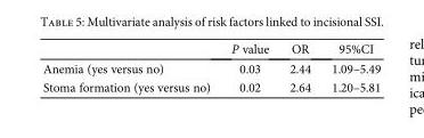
<table><thead><tr><td></td><td>P value</td><td>OR</td><td>95%CI</td></tr></thead><tbody><tr><td>Anemia (yes versus no)</td><td>0.03</td><td>2.44</td><td>1.09–5.49</td></tr><tr><td>Stoma formation (yes versus no)</td><td>0.02</td><td>2.64</td><td>1.20–5.81</td></tr></tbody></table>